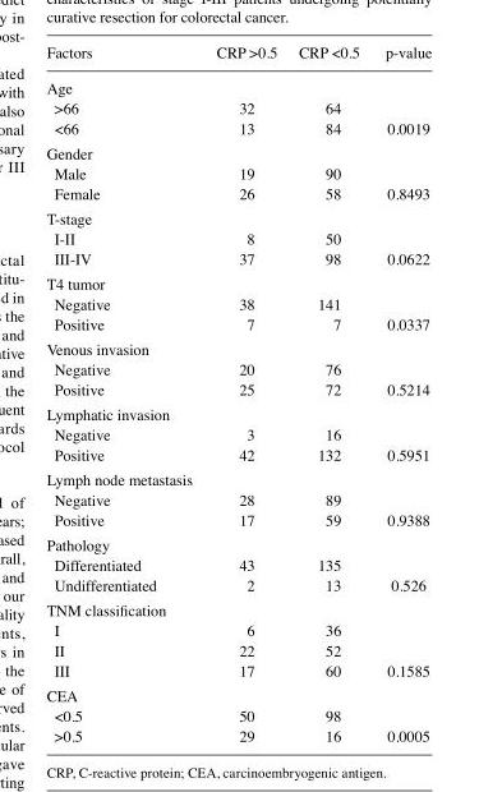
<table><thead><tr><td>Factors</td><td>CRP &gt;0.5</td><td>CRP &lt;0.5</td><td>p-value</td></tr></thead><tbody><tr><td colspan="4">Age</td></tr><tr><td>&gt;66</td><td>32</td><td>64</td><td></td></tr><tr><td>&lt;66</td><td>13</td><td>84</td><td>0.0019</td></tr><tr><td colspan="4">Gender</td></tr><tr><td>Male</td><td>19</td><td>90</td><td></td></tr><tr><td>Female</td><td>26</td><td>58</td><td>0.8493</td></tr><tr><td colspan="4">T-stage</td></tr><tr><td>I-II</td><td>8</td><td>50</td><td></td></tr><tr><td>III-IV</td><td>37</td><td>98</td><td>0.0622</td></tr><tr><td colspan="4">T4 tumor</td></tr><tr><td>Negative</td><td>38</td><td>141</td><td></td></tr><tr><td>Positive</td><td>7</td><td>7</td><td>0.0337</td></tr><tr><td colspan="4">Venous invasion</td></tr><tr><td>Negative</td><td>20</td><td>76</td><td></td></tr><tr><td>Positive</td><td>25</td><td>72</td><td>0.5214</td></tr><tr><td colspan="4">Lymphatic invasion</td></tr><tr><td>Negative</td><td>3</td><td>16</td><td></td></tr><tr><td>Positive</td><td>42</td><td>132</td><td>0.5951</td></tr><tr><td colspan="4">Lymph node metastasis</td></tr><tr><td>Negative</td><td>28</td><td>89</td><td></td></tr><tr><td>Positive</td><td>17</td><td>59</td><td>0.9388</td></tr><tr><td colspan="4">Pathology</td></tr><tr><td>Differentiated</td><td>43</td><td>135</td><td></td></tr><tr><td>Undifferentiated</td><td>2</td><td>13</td><td>0.526</td></tr><tr><td colspan="4">TNM classification</td></tr><tr><td>I</td><td>6</td><td>36</td><td></td></tr><tr><td>II</td><td>22</td><td>52</td><td></td></tr><tr><td>III</td><td>17</td><td>60</td><td>0.1585</td></tr><tr><td colspan="4">CEA</td></tr><tr><td>&lt;0.5</td><td>50</td><td>98</td><td></td></tr><tr><td>&gt;0.5</td><td>29</td><td>16</td><td>0.0005</td></tr></tbody></table>